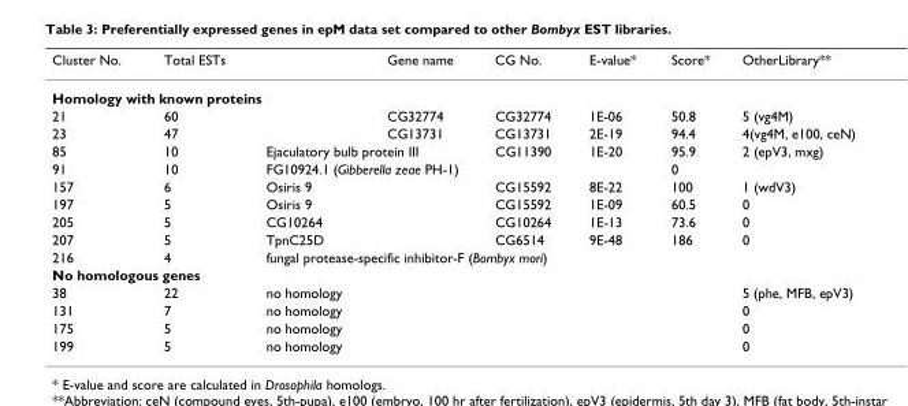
<table><thead><tr><td>Cluster No.</td><td>Total ESTs</td><td></td><td>Gene name</td><td>CG No.</td><td>E-value*</td><td>Score*</td><td>OtherLibrary**</td></tr></thead><tbody><tr><td colspan="8">Homology with known proteins</td></tr><tr><td>21</td><td>60</td><td></td><td>CG32774</td><td>CG32774</td><td>1E-06</td><td>50.8</td><td>5 (vg4M)</td></tr><tr><td>23</td><td>47</td><td></td><td>CG13731</td><td>CG13731</td><td>2E-19</td><td>94.4</td><td>4(vg4M, e100, ceN)</td></tr><tr><td>85</td><td>10</td><td colspan="2">Ejaculatory bulb protein III</td><td>CG11390</td><td>1E-20</td><td>95.9</td><td>2 (epV3, mxg)</td></tr><tr><td>91</td><td>10</td><td colspan="3">FG10924.1 (Gibberella zeae PH-1)</td><td></td><td>0</td><td></td></tr><tr><td>157</td><td>6</td><td>Osiris 9</td><td></td><td>CG15592</td><td>8E-22</td><td>100</td><td>1 (wdV3)</td></tr><tr><td>197</td><td>5</td><td>Osiris 9</td><td></td><td>CG15592</td><td>1E-09</td><td>60.5</td><td>0</td></tr><tr><td>205</td><td>5</td><td>CG10264</td><td></td><td>CG10264</td><td>1E-13</td><td>73.6</td><td>0</td></tr><tr><td>207</td><td>5</td><td>TpnC25D</td><td></td><td>CG6514</td><td>9E-48</td><td>186</td><td>0</td></tr><tr><td>216</td><td>4</td><td colspan="4">fungal protease-specific inhibitor-F (Bombyx mori)</td><td></td><td></td></tr><tr><td colspan="8">No homologous genes</td></tr><tr><td>38</td><td>22</td><td>no homology</td><td></td><td></td><td></td><td></td><td>5 (phe, MFB, epV3)</td></tr><tr><td>131</td><td>7</td><td>no homology</td><td></td><td></td><td></td><td></td><td>0</td></tr><tr><td>175</td><td>5</td><td>no homology</td><td></td><td></td><td></td><td></td><td>0</td></tr><tr><td>199</td><td>5</td><td>no homology</td><td></td><td></td><td></td><td></td><td>0</td></tr></tbody></table>